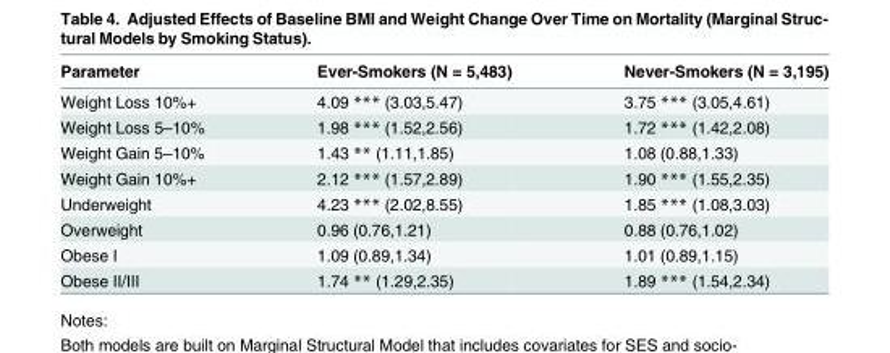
<table><thead><tr><td>Parameter</td><td>Ever-Smokers (N = 5,483)</td><td>Never-Smokers (N = 3,195)</td></tr></thead><tbody><tr><td>Weight Loss 10%+</td><td>4.09 *** (3.03,5.47)</td><td>3.75 *** (3.05,4.61)</td></tr><tr><td>Weight Loss 5–10%</td><td>1.98 *** (1.52,2.56)</td><td>1.72 *** (1.42,2.08)</td></tr><tr><td>Weight Gain 5–10%</td><td>1.43 ** (1.11,1.85)</td><td>1.08 (0.88,1.33)</td></tr><tr><td>Weight Gain 10%+</td><td>2.12 *** (1.57,2.89)</td><td>1.90 *** (1.55,2.35)</td></tr><tr><td>Underweight</td><td>4.23 *** (2.02,8.55)</td><td>1.85 *** (1.08,3.03)</td></tr><tr><td>Overweight</td><td>0.96 (0.76,1.21)</td><td>0.88 (0.76,1.02)</td></tr><tr><td>Obese I</td><td>1.09 (0.89,1.34)</td><td>1.01 (0.89,1.15)</td></tr><tr><td>Obese II/III</td><td>1.74 ** (1.29,2.35)</td><td>1.89 *** (1.54,2.34)</td></tr></tbody></table>